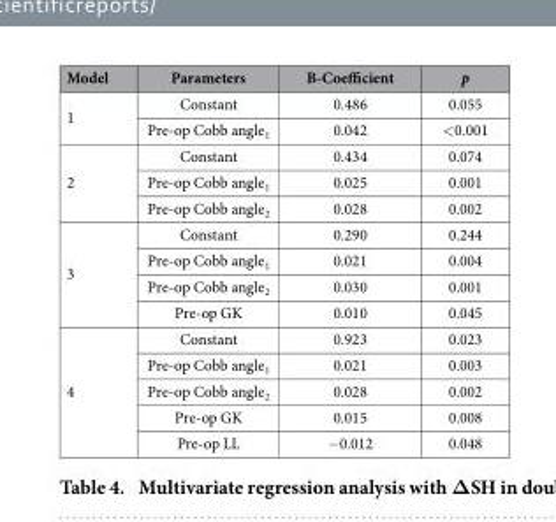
<table><thead><tr><td>Model</td><td>Parameters</td><td>B-Coefficient</td><td>p</td></tr></thead><tbody><tr><td rowspan="2">1</td><td>Constant</td><td>0.486</td><td>0.055</td></tr><tr><td>Pre-op Cobb angle<sub>1</sub></td><td>0.042</td><td>&lt; 0.001</td></tr><tr><td rowspan="3">2</td><td>Constant</td><td>0.434</td><td>0.074</td></tr><tr><td>Pre-op Cobb angle<sub>1</sub></td><td>0.025</td><td>0.001</td></tr><tr><td>Pre-op Cobb angle<sub>2</sub></td><td>0.028</td><td>0.002</td></tr><tr><td rowspan="4">3</td><td>Constant</td><td>0.290</td><td>0.244</td></tr><tr><td>Pre-op Cobb angle<sub>1</sub></td><td>0.021</td><td>0.004</td></tr><tr><td>Pre-op Cobb angle<sub>2</sub></td><td>0.030</td><td>0.001</td></tr><tr><td>Pre-op GK</td><td>0.010</td><td>0.045</td></tr><tr><td rowspan="5">4</td><td>Constant</td><td>0.923</td><td>0.023</td></tr><tr><td>Pre-op Cobb angle<sub>1</sub></td><td>0.021</td><td>0.003</td></tr><tr><td>Pre-op Cobb angle<sub>2</sub></td><td>0.028</td><td>0.002</td></tr><tr><td>Pre-op GK</td><td>0.015</td><td>0.008</td></tr><tr><td>Pre-op LL</td><td>− 0.012</td><td>0.048</td></tr></tbody></table>